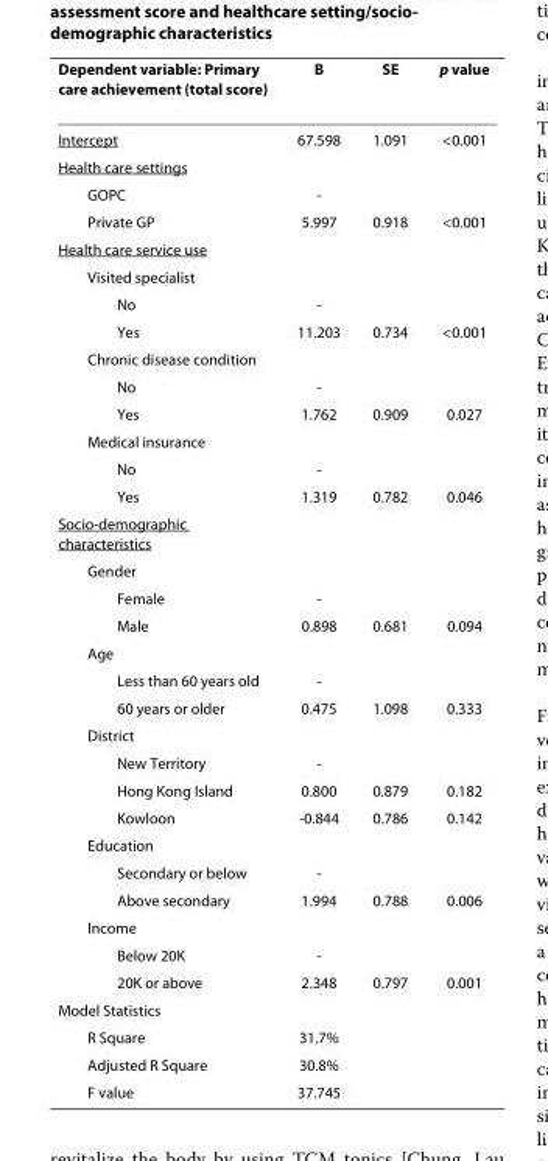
<table><thead><tr><td>Dependent variable: Primary care achievement (total score)</td><td>B</td><td>SE</td><td>p value</td></tr></thead><tbody><tr><td>Intercept</td><td>67.598</td><td>1.091</td><td>&lt;0.001</td></tr><tr><td colspan="4">Health care settings</td></tr><tr><td>GOPC</td><td>-</td><td></td><td></td></tr><tr><td>Private GP</td><td>5.997</td><td>0.918</td><td>&lt;0.001</td></tr><tr><td colspan="4">Health care service use</td></tr><tr><td colspan="4">Visited specialist</td></tr><tr><td>No</td><td>-</td><td></td><td></td></tr><tr><td>Yes</td><td>11.203</td><td>0.734</td><td>&lt;0.001</td></tr><tr><td colspan="4">Chronic disease condition</td></tr><tr><td>No</td><td>-</td><td></td><td></td></tr><tr><td>Yes</td><td>1.762</td><td>0.909</td><td>0.027</td></tr><tr><td colspan="4">Medical insurance</td></tr><tr><td>No</td><td>-</td><td></td><td></td></tr><tr><td>Yes</td><td>1.319</td><td>0.782</td><td>0.046</td></tr><tr><td colspan="4">Socio-demographic characteristics</td></tr><tr><td colspan="4">Gender</td></tr><tr><td>Female</td><td>-</td><td></td><td></td></tr><tr><td>Male</td><td>0.898</td><td>0.681</td><td>0.094</td></tr><tr><td colspan="4">Age</td></tr><tr><td>Less than 60 years old</td><td>-</td><td></td><td></td></tr><tr><td>60 years or older</td><td>0.475</td><td>1.098</td><td>0.333</td></tr><tr><td colspan="4">District</td></tr><tr><td>New Territory</td><td>-</td><td></td><td></td></tr><tr><td>Hong Kong Island</td><td>0.800</td><td>0.879</td><td>0.182</td></tr><tr><td>Kowloon</td><td>-0.844</td><td>0.786</td><td>0.142</td></tr><tr><td colspan="4">Education</td></tr><tr><td>Secondary or below</td><td>-</td><td></td><td></td></tr><tr><td>Above secondary</td><td>1.994</td><td>0.788</td><td>0.006</td></tr><tr><td colspan="4">Income</td></tr><tr><td>Below 20K</td><td>-</td><td></td><td></td></tr><tr><td>20K or above</td><td>2.348</td><td>0.797</td><td>0.001</td></tr><tr><td colspan="4">Model Statistics</td></tr><tr><td>R Square</td><td>31.7%</td><td></td><td></td></tr><tr><td>Adjusted R Square</td><td>30.8%</td><td></td><td></td></tr><tr><td>F value</td><td>37.745</td><td></td><td></td></tr></tbody></table>